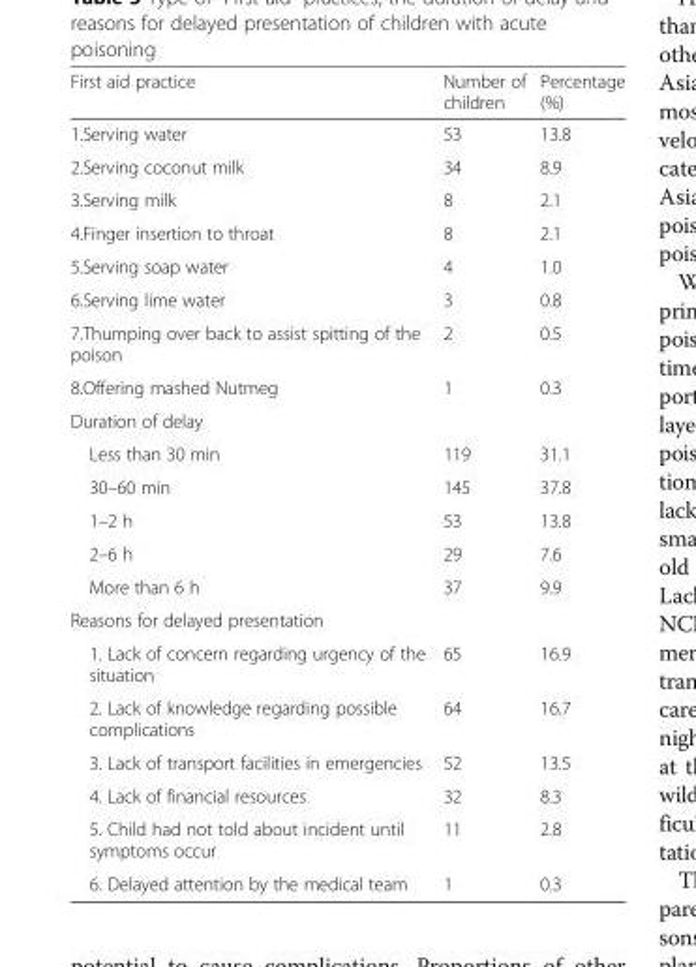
<table><thead><tr><td>First aid practice</td><td>Number of children</td><td>Percentage (%)</td></tr></thead><tbody><tr><td>1.Serving water</td><td>53</td><td>13.8</td></tr><tr><td>2.Serving coconut milk</td><td>34</td><td>8.9</td></tr><tr><td>3.Serving milk</td><td>8</td><td>2.1</td></tr><tr><td>4.Finger insertion to throat</td><td>8</td><td>2.1</td></tr><tr><td>5.Serving soap water</td><td>4</td><td>1.0</td></tr><tr><td>6.Serving lime water</td><td>3</td><td>0.8</td></tr><tr><td>7.Thumping over back to assist spitting of the poison</td><td>2</td><td>0.5</td></tr><tr><td>8.Offering mashed Nutmeg</td><td>1</td><td>0.3</td></tr><tr><td colspan="3">Duration of delay</td></tr><tr><td>Less than 30 min</td><td>119</td><td>31.1</td></tr><tr><td>30–60 min</td><td>145</td><td>37.8</td></tr><tr><td>1–2 h</td><td>53</td><td>13.8</td></tr><tr><td>2–6 h</td><td>29</td><td>7.6</td></tr><tr><td>More than 6 h</td><td>37</td><td>9.9</td></tr><tr><td colspan="3">Reasons for delayed presentation</td></tr><tr><td>1. Lack of concern regarding urgency of the situation</td><td>65</td><td>16.9</td></tr><tr><td>2. Lack of knowledge regarding possible complications</td><td>64</td><td>16.7</td></tr><tr><td>3. Lack of transport facilities in emergencies</td><td>52</td><td>13.5</td></tr><tr><td>4. Lack of financial resources</td><td>32</td><td>8.3</td></tr><tr><td>5. Child had not told about incident until symptoms occur</td><td>11</td><td>2.8</td></tr><tr><td>6. Delayed attention by the medical team</td><td>1</td><td>0.3</td></tr></tbody></table>